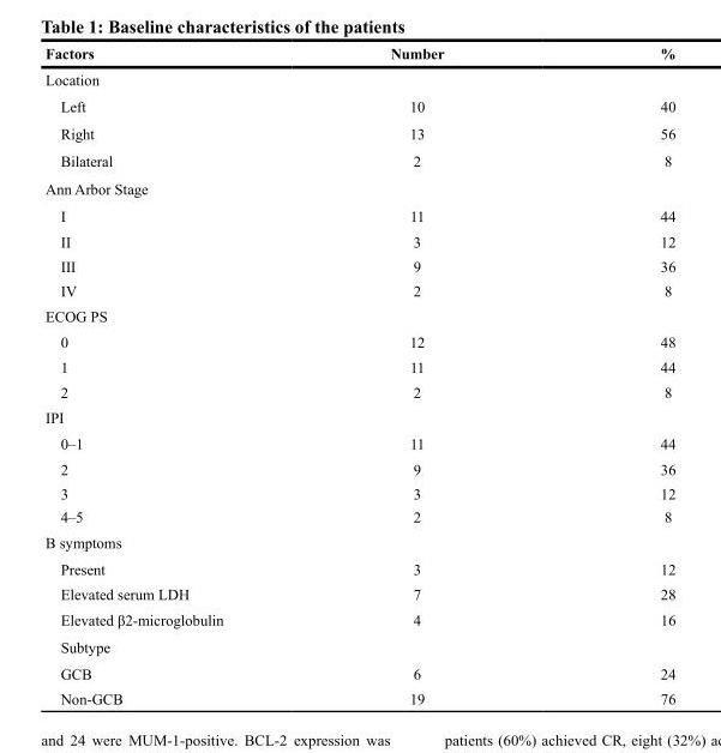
<table><thead><tr><td>Factors</td><td>Number</td><td>%</td></tr></thead><tbody><tr><td colspan="3">Location</td></tr><tr><td>Left</td><td>10</td><td>40</td></tr><tr><td>Right</td><td>13</td><td>56</td></tr><tr><td>Bilateral</td><td>2</td><td>8</td></tr><tr><td colspan="3">Ann Arbor Stage</td></tr><tr><td>I</td><td>11</td><td>44</td></tr><tr><td>II</td><td>3</td><td>12</td></tr><tr><td>III</td><td>9</td><td>36</td></tr><tr><td>IV</td><td>2</td><td>8</td></tr><tr><td colspan="3">ECOG PS</td></tr><tr><td>0</td><td>12</td><td>48</td></tr><tr><td>1</td><td>11</td><td>44</td></tr><tr><td>2</td><td>2</td><td>8</td></tr><tr><td colspan="3">IPI</td></tr><tr><td>0–1</td><td>11</td><td>44</td></tr><tr><td>2</td><td>9</td><td>36</td></tr><tr><td>3</td><td>3</td><td>12</td></tr><tr><td>4–5</td><td>2</td><td>8</td></tr><tr><td colspan="3">B symptoms</td></tr><tr><td>Present</td><td>3</td><td>12</td></tr><tr><td>Elevated serum LDH</td><td>7</td><td>28</td></tr><tr><td>Elevated β2-microglobulin</td><td>4</td><td>16</td></tr><tr><td colspan="3">Subtype</td></tr><tr><td>GCB</td><td>6</td><td>24</td></tr><tr><td>Non-GCB</td><td>19</td><td>76</td></tr></tbody></table>